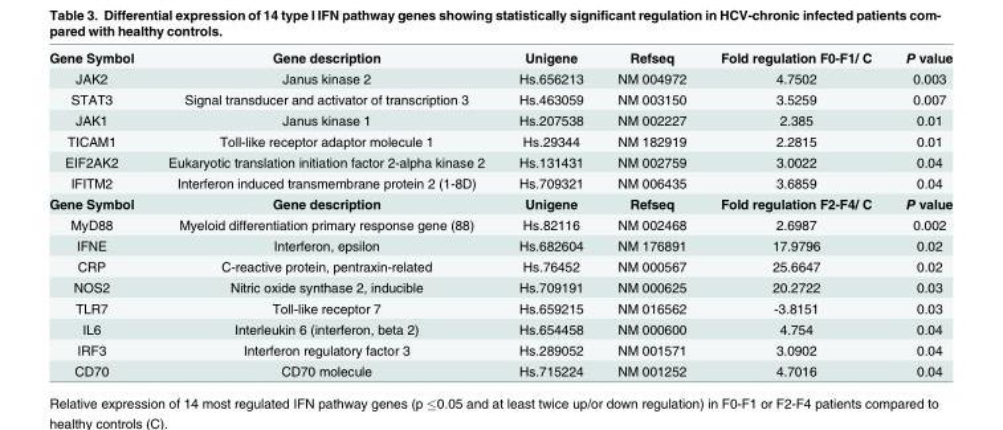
<table><tbody><tr><td>Gene Symbol</td><td>Gene description</td><td>Unigene</td><td>Refseq</td><td>Fold regulation F0-F1/ C</td><td>P value</td></tr><tr><td>JAK2</td><td>Janus kinase 2</td><td>Hs.656213</td><td>NM 004972</td><td>4.7502</td><td>0.003</td></tr><tr><td>STAT3</td><td>Signal transducer and activator of transcription 3</td><td>Hs.463059</td><td>NM 003150</td><td>3.5259</td><td>0.007</td></tr><tr><td>JAK1</td><td>Janus kinase 1</td><td>Hs.207538</td><td>NM 002227</td><td>2.385</td><td>0.01</td></tr><tr><td>TICAM1</td><td>Toll-like receptor adaptor molecule 1</td><td>Hs.29344</td><td>NM 182919</td><td>2.2815</td><td>0.01</td></tr><tr><td>EIF2AK2</td><td>Eukaryotic translation initiation factor 2-alpha kinase 2</td><td>Hs.131431</td><td>NM 002759</td><td>3.0022</td><td>0.04</td></tr><tr><td>IFITM2</td><td>Interferon induced transmembrane protein 2 (1-8D)</td><td>Hs.709321</td><td>NM 006435</td><td>3.6859</td><td>0.04</td></tr><tr><td>Gene Symbol</td><td>Gene description</td><td>Unigene</td><td>Refseq</td><td>Fold regulation F2-F4/ C</td><td>P value</td></tr><tr><td>MyD88</td><td>Myeloid differentiation primary response gene (88)</td><td>Hs.82116</td><td>NM 002468</td><td>2.6987</td><td>0.002</td></tr><tr><td>IFNE</td><td>Interferon, epsilon</td><td>Hs.682604</td><td>NM 176891</td><td>17.9796</td><td>0.02</td></tr><tr><td>CRP</td><td>C-reactive protein, pentraxin-related</td><td>Hs.76452</td><td>NM 000567</td><td>25.6647</td><td>0.02</td></tr><tr><td>NOS2</td><td>Nitric oxide synthase 2, inducible</td><td>Hs.709191</td><td>NM 000625</td><td>20.2722</td><td>0.03</td></tr><tr><td>TLR7</td><td>Toll-like receptor 7</td><td>Hs.659215</td><td>NM 016562</td><td>-3.8151</td><td>0.03</td></tr><tr><td>IL6</td><td>Interleukin 6 (interferon, beta 2)</td><td>Hs.654458</td><td>NM 000600</td><td>4.754</td><td>0.04</td></tr><tr><td>IRF3</td><td>Interferon regulatory factor 3</td><td>Hs.289052</td><td>NM 001571</td><td>3.0902</td><td>0.04</td></tr><tr><td>CD70</td><td>CD70 molecule</td><td>Hs.715224</td><td>NM 001252</td><td>4.7016</td><td>0.04</td></tr></tbody></table>